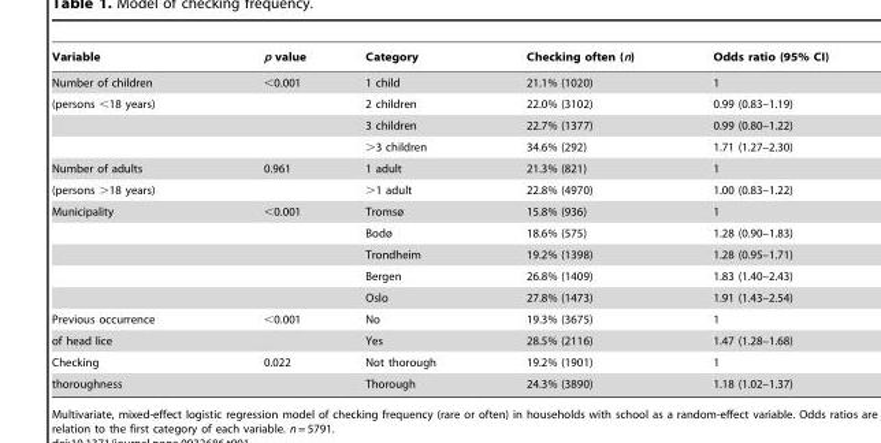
<table><thead><tr><td>Variable</td><td>p value</td><td>Category</td><td>Checking often (n)</td><td>Odds ratio (95% CI)</td></tr></thead><tbody><tr><td>Number of children</td><td>&lt;0.001</td><td>1 child</td><td>21.1% (1020)</td><td>1</td></tr><tr><td rowspan="3">(persons &lt;18 years)</td><td></td><td>2 children</td><td>22.0% (3102)</td><td>0.99 (0.83–1.19)</td></tr><tr><td></td><td>3 children</td><td>22.7% (1377)</td><td>0.99 (0.80–1.22)</td></tr><tr><td></td><td>&gt;3 children</td><td>34.6% (292)</td><td>1.71 (1.27–2.30)</td></tr><tr><td>Number of adults</td><td>0.961</td><td>1 adult</td><td>21.3% (821)</td><td>1</td></tr><tr><td>(persons &gt;18 years)</td><td></td><td>&gt;1 adult</td><td>22.8% (4970)</td><td>1.00 (0.83–1.22)</td></tr><tr><td rowspan="5">Municipality</td><td>&lt;0.001</td><td>Tromsø</td><td>15.8% (936)</td><td>1</td></tr><tr><td></td><td>Bodø</td><td>18.6% (575)</td><td>1.28 (0.90–1.83)</td></tr><tr><td></td><td>Trondheim</td><td>19.2% (1398)</td><td>1.28 (0.95–1.71)</td></tr><tr><td></td><td>Bergen</td><td>26.8% (1409)</td><td>1.83 (1.40–2.43)</td></tr><tr><td></td><td>Oslo</td><td>27.8% (1473)</td><td>1.91 (1.43–2.54)</td></tr><tr><td>Previous occurrence</td><td>&lt;0.001</td><td>No</td><td>19.3% (3675)</td><td>1</td></tr><tr><td>of head lice</td><td></td><td>Yes</td><td>28.5% (2116)</td><td>1.47 (1.28–1.68)</td></tr><tr><td>Checking</td><td>0.022</td><td>Not thorough</td><td>19.2% (1901)</td><td>1</td></tr><tr><td>thoroughness</td><td></td><td>Thorough</td><td>24.3% (3890)</td><td>1.18 (1.02–1.37)</td></tr></tbody></table>